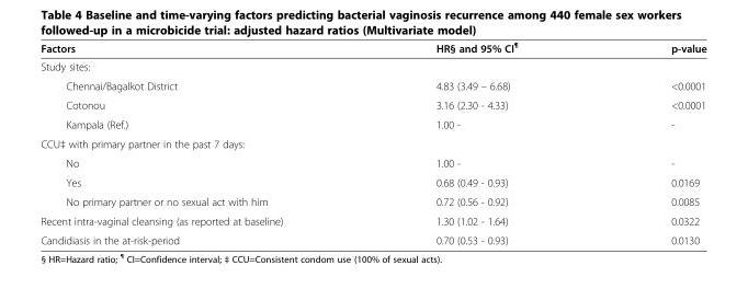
<table><thead><tr><td>Factors</td><td>HR§ and 95% CI<sup>¶</sup></td><td>p-value</td></tr></thead><tbody><tr><td colspan="3">Study sites:</td></tr><tr><td>Chennai/Bagalkot District</td><td>4.83 (3.49 – 6.68)</td><td>&lt;0.0001</td></tr><tr><td>Cotonou</td><td>3.16 (2.30 - 4.33)</td><td>&lt;0.0001</td></tr><tr><td>Kampala (Ref.)</td><td>1.00 -</td><td>-</td></tr><tr><td colspan="3">CCU‡ with primary partner in the past 7 days:</td></tr><tr><td>No</td><td>1.00 -</td><td>-</td></tr><tr><td>Yes</td><td>0.68 (0.49 - 0.93)</td><td>0.0169</td></tr><tr><td>No primary partner or no sexual act with him</td><td>0.72 (0.56 - 0.92)</td><td>0.0085</td></tr><tr><td>Recent intra-vaginal cleansing (as reported at baseline)</td><td>1.30 (1.02 - 1.64)</td><td>0.0322</td></tr><tr><td>Candidiasis in the at-risk-period</td><td>0.70 (0.53 - 0.93)</td><td>0.0130</td></tr></tbody></table>